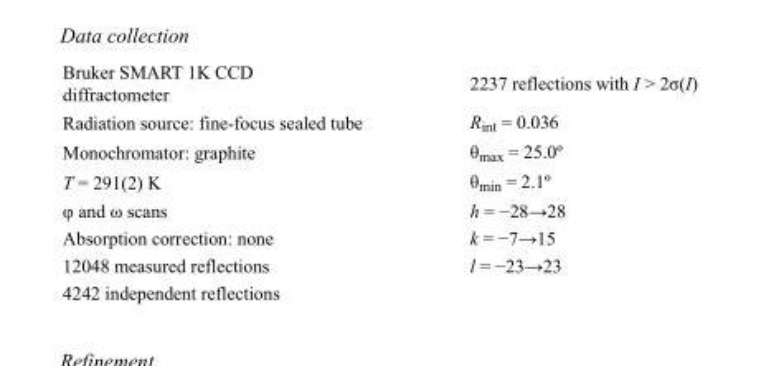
<table><tbody><tr><td>Bruker SMART 1K CCD diffractometer</td><td>2237 reflections with I &gt; 2σ(I)</td></tr><tr><td>Radiation source: fine-focus sealed tube</td><td>R<sub>int</sub> = 0.036</td></tr><tr><td>Monochromator: graphite</td><td>θ<sub>max</sub> = 25.0º</td></tr><tr><td>T = 291(2) K</td><td>θ<sub>min</sub> = 2.1º</td></tr><tr><td>φ and ω scans</td><td>h = −28→28</td></tr><tr><td>Absorption correction: none</td><td>k = −7→15</td></tr><tr><td>12048 measured reflections</td><td>l = −23→23</td></tr><tr><td>4242 independent reflections</td><td></td></tr></tbody></table>